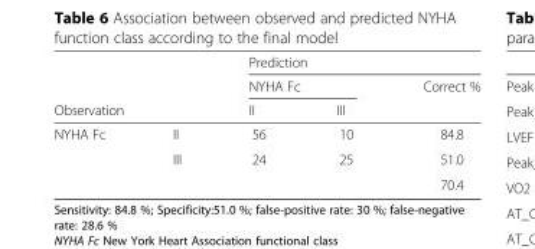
<table><thead><tr><td rowspan="2"></td><td rowspan="2"></td><td colspan="3">Prediction</td></tr><tr><td colspan="2">NYHA Fc</td><td rowspan="2">Correct %</td></tr><tr><td colspan="2">Observation</td><td>II</td><td>III</td></tr></thead><tbody><tr><td rowspan="2">NYHA Fc</td><td>II</td><td>56</td><td>10</td><td>84.8</td></tr><tr><td>III</td><td>24</td><td>25</td><td>51.0</td></tr><tr><td colspan="2"></td><td colspan="2"></td><td>70.4</td></tr></tbody></table>